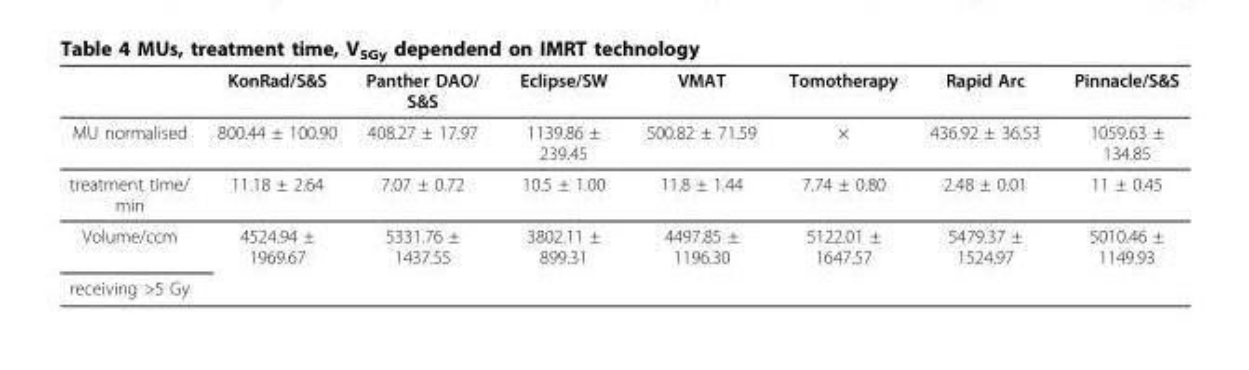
<table><thead><tr><td></td><td>KonRad/S&amp;S</td><td>Panther DAO/ S&amp;S</td><td>Eclipse/SW</td><td>VMAT</td><td>Tomotherapy</td><td>Rapid Arc</td><td>Pinnacle/S&amp;S</td></tr></thead><tbody><tr><td>MU normalised</td><td>800.44 ± 100.90</td><td>408.27 ± 17.97</td><td>1139.86 ± 239.45</td><td>500.82 ± 71.59</td><td>×</td><td>436.92 ± 36.53</td><td>1059.63 ± 134.85</td></tr><tr><td>treatment time/ min</td><td>11.18 ± 2.64</td><td>7.07 ± 0.72</td><td>10.5 ± 1.00</td><td>11.8 ± 1.44</td><td>7.74 ± 0.80</td><td>2.48 ± 0.01</td><td>11 ± 0.45</td></tr><tr><td>Volume/ccm</td><td>4524.94 ± 1969.67</td><td>5331.76 ± 1437.55</td><td>3802.11 ± 899.31</td><td>4497.85 ± 1196.30</td><td>5122.01 ± 1647.57</td><td>5479.37 ± 1524.97</td><td>5010.46 ± 1149.93</td></tr><tr><td>receiving &gt;5 Gy</td><td></td><td></td><td></td><td></td><td></td><td></td><td></td></tr></tbody></table>